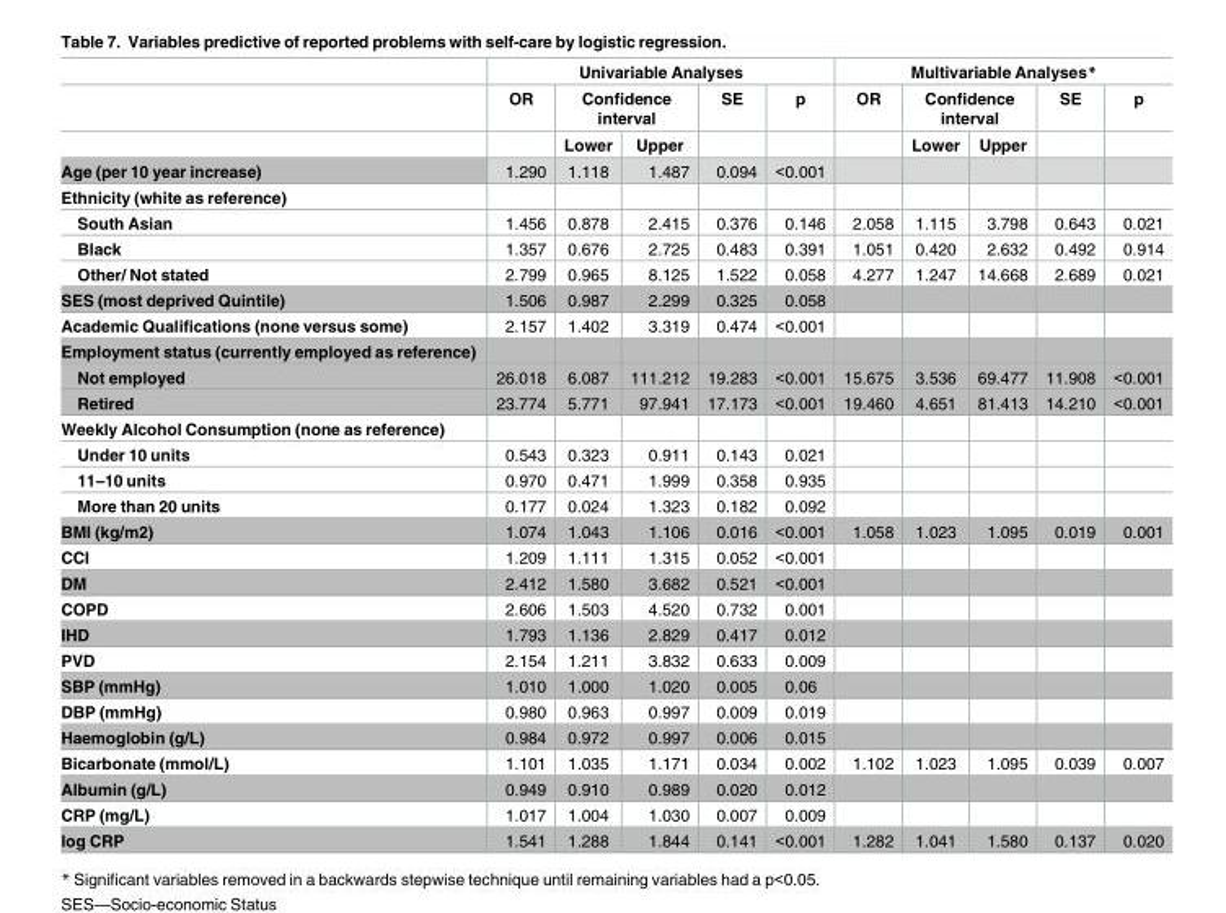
<table><thead><tr><td rowspan="3"></td><td colspan="5">Univariable Analyses</td><td colspan="5">Multivariable Analyses*</td></tr><tr><td rowspan="2">OR</td><td colspan="2">Confidence interval</td><td rowspan="2">SE</td><td rowspan="2">p</td><td rowspan="2">OR</td><td colspan="2">Confidence interval</td><td rowspan="2">SE</td><td rowspan="2">p</td></tr><tr><td>Lower</td><td>Upper</td><td>Lower</td><td>Upper</td></tr></thead><tbody><tr><td>Age (per 10 year increase)</td><td>1.290</td><td>1.118</td><td>1.487</td><td>0.094</td><td>&lt;0.001</td><td></td><td></td><td></td><td></td><td></td></tr><tr><td colspan="11">Ethnicity (white as reference)</td></tr><tr><td>South Asian</td><td>1.456</td><td>0.878</td><td>2.415</td><td>0.376</td><td>0.146</td><td>2.058</td><td>1.115</td><td>3.798</td><td>0.643</td><td>0.021</td></tr><tr><td>Black</td><td>1.357</td><td>0.676</td><td>2.725</td><td>0.483</td><td>0.391</td><td>1.051</td><td>0.420</td><td>2.632</td><td>0.492</td><td>0.914</td></tr><tr><td>Other/ Not stated</td><td>2.799</td><td>0.965</td><td>8.125</td><td>1.522</td><td>0.058</td><td>4.277</td><td>1.247</td><td>14.668</td><td>2.689</td><td>0.021</td></tr><tr><td>SES (most deprived Quintile)</td><td>1.506</td><td>0.987</td><td>2.299</td><td>0.325</td><td>0.058</td><td></td><td></td><td></td><td></td><td></td></tr><tr><td>Academic Qualifications (none versus some)</td><td>2.157</td><td>1.402</td><td>3.319</td><td>0.474</td><td>&lt;0.001</td><td></td><td></td><td></td><td></td><td></td></tr><tr><td colspan="11">Employment status (currently employed as reference)</td></tr><tr><td>Not employed</td><td>26.018</td><td>6.087</td><td>111.212</td><td>19.283</td><td>&lt;0.001</td><td>15.675</td><td>3.536</td><td>69.477</td><td>11.908</td><td>&lt;0.001</td></tr><tr><td>Retired</td><td>23.774</td><td>5.771</td><td>97.941</td><td>17.173</td><td>&lt;0.001</td><td>19.460</td><td>4.651</td><td>81.413</td><td>14.210</td><td>&lt;0.001</td></tr><tr><td colspan="11">Weekly Alcohol Consumption (none as reference)</td></tr><tr><td>Under 10 units</td><td>0.543</td><td>0.323</td><td>0.911</td><td>0.143</td><td>0.021</td><td></td><td></td><td></td><td></td><td></td></tr><tr><td>11–10 units</td><td>0.970</td><td>0.471</td><td>1.999</td><td>0.358</td><td>0.935</td><td></td><td></td><td></td><td></td><td></td></tr><tr><td>More than 20 units</td><td>0.177</td><td>0.024</td><td>1.323</td><td>0.182</td><td>0.092</td><td></td><td></td><td></td><td></td><td></td></tr><tr><td>BMI (kg/m2)</td><td>1.074</td><td>1.043</td><td>1.106</td><td>0.016</td><td>&lt;0.001</td><td>1.058</td><td>1.023</td><td>1.095</td><td>0.019</td><td>0.001</td></tr><tr><td>CCI</td><td>1.209</td><td>1.111</td><td>1.315</td><td>0.052</td><td>&lt;0.001</td><td></td><td></td><td></td><td></td><td></td></tr><tr><td>DM</td><td>2.412</td><td>1.580</td><td>3.682</td><td>0.521</td><td>&lt;0.001</td><td></td><td></td><td></td><td></td><td></td></tr><tr><td>COPD</td><td>2.606</td><td>1.503</td><td>4.520</td><td>0.732</td><td>0.001</td><td></td><td></td><td></td><td></td><td></td></tr><tr><td>IHD</td><td>1.793</td><td>1.136</td><td>2.829</td><td>0.417</td><td>0.012</td><td></td><td></td><td></td><td></td><td></td></tr><tr><td>PVD</td><td>2.154</td><td>1.211</td><td>3.832</td><td>0.633</td><td>0.009</td><td></td><td></td><td></td><td></td><td></td></tr><tr><td>SBP (mmHg)</td><td>1.010</td><td>1.000</td><td>1.020</td><td>0.005</td><td>0.06</td><td></td><td></td><td></td><td></td><td></td></tr><tr><td>DBP (mmHg)</td><td>0.980</td><td>0.963</td><td>0.997</td><td>0.009</td><td>0.019</td><td></td><td></td><td></td><td></td><td></td></tr><tr><td>Haemoglobin (g/L)</td><td>0.984</td><td>0.972</td><td>0.997</td><td>0.006</td><td>0.015</td><td></td><td></td><td></td><td></td><td></td></tr><tr><td>Bicarbonate (mmol/L)</td><td>1.101</td><td>1.035</td><td>1.171</td><td>0.034</td><td>0.002</td><td>1.102</td><td>1.023</td><td>1.095</td><td>0.039</td><td>0.007</td></tr><tr><td>Albumin (g/L)</td><td>0.949</td><td>0.910</td><td>0.989</td><td>0.020</td><td>0.012</td><td></td><td></td><td></td><td></td><td></td></tr><tr><td>CRP (mg/L)</td><td>1.017</td><td>1.004</td><td>1.030</td><td>0.007</td><td>0.009</td><td></td><td></td><td></td><td></td><td></td></tr><tr><td>log CRP</td><td>1.541</td><td>1.288</td><td>1.844</td><td>0.141</td><td>&lt;0.001</td><td>1.282</td><td>1.041</td><td>1.580</td><td>0.137</td><td>0.020</td></tr></tbody></table>